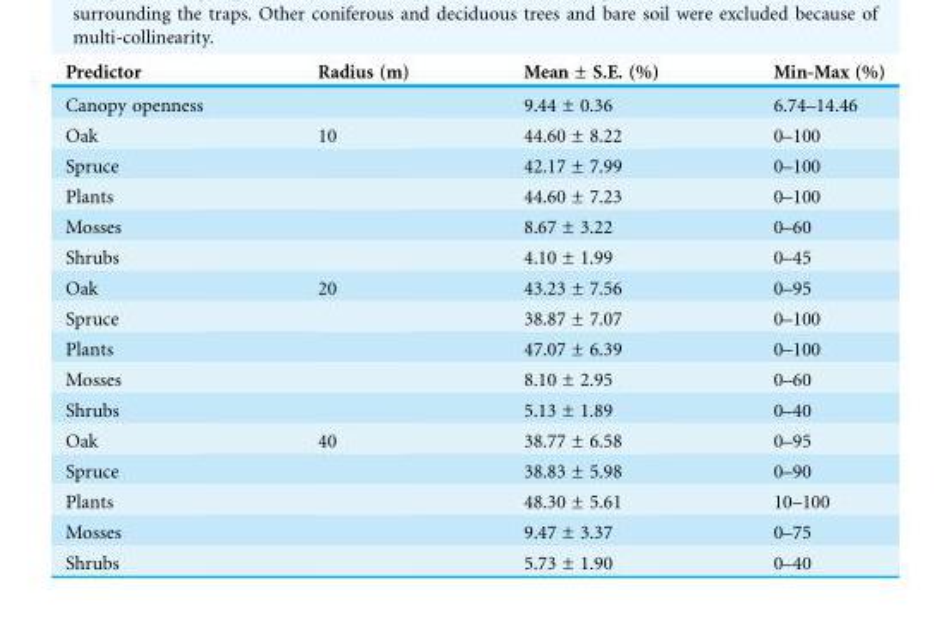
<table><thead><tr><td>Predictor</td><td>Radius (m)</td><td>Mean ± S.E. (%)</td><td>Min-Max (%)</td></tr></thead><tbody><tr><td>Canopy openness</td><td></td><td>9.44 ± 0.36</td><td>6.74–14.46</td></tr><tr><td>Oak</td><td>10</td><td>44.60 ± 8.22</td><td>0–100</td></tr><tr><td>Spruce</td><td></td><td>42.17 ± 7.99</td><td>0–100</td></tr><tr><td>Plants</td><td></td><td>44.60 ± 7.23</td><td>0–100</td></tr><tr><td>Mosses</td><td></td><td>8.67 ± 3.22</td><td>0–60</td></tr><tr><td>Shrubs</td><td></td><td>4.10 ± 1.99</td><td>0–45</td></tr><tr><td>Oak</td><td>20</td><td>43.23 ± 7.56</td><td>0–95</td></tr><tr><td>Spruce</td><td></td><td>38.87 ± 7.07</td><td>0–100</td></tr><tr><td>Plants</td><td></td><td>47.07 ± 6.39</td><td>0–100</td></tr><tr><td>Mosses</td><td></td><td>8.10 ± 2.95</td><td>0–60</td></tr><tr><td>Shrubs</td><td></td><td>5.13 ± 1.89</td><td>0–40</td></tr><tr><td>Oak</td><td>40</td><td>38.77 ± 6.58</td><td>0–95</td></tr><tr><td>Spruce</td><td></td><td>38.83 ± 5.98</td><td>0–90</td></tr><tr><td>Plants</td><td></td><td>48.30 ± 5.61</td><td>10–100</td></tr><tr><td>Mosses</td><td></td><td>9.47 ± 3.37</td><td>0–75</td></tr><tr><td>Shrubs</td><td></td><td>5.73 ± 1.90</td><td>0–40</td></tr></tbody></table>